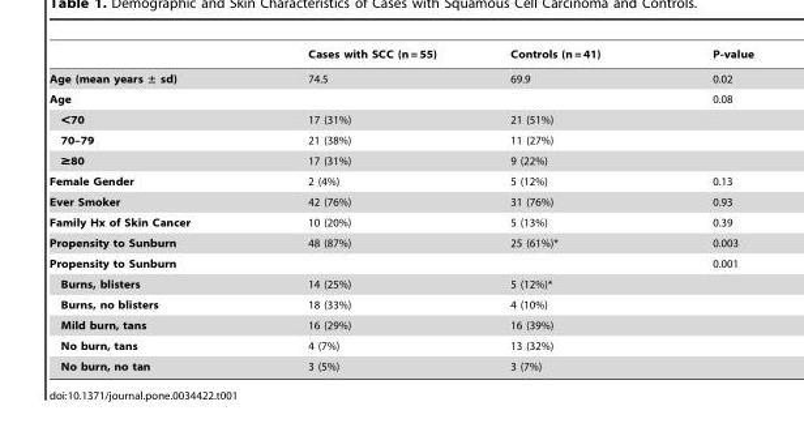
<table><thead><tr><td></td><td>Cases with SCC (n = 55)</td><td>Controls (n = 41)</td><td>P-value</td></tr></thead><tbody><tr><td>Age (mean years ± sd)</td><td>74.5</td><td>69.9</td><td>0.02</td></tr><tr><td>Age</td><td></td><td></td><td>0.08</td></tr><tr><td>&lt;70</td><td>17 (31%)</td><td>21 (51%)</td><td></td></tr><tr><td>70–79</td><td>21 (38%)</td><td>11 (27%)</td><td></td></tr><tr><td>≥80</td><td>17 (31%)</td><td>9 (22%)</td><td></td></tr><tr><td>Female Gender</td><td>2 (4%)</td><td>5 (12%)</td><td>0.13</td></tr><tr><td>Ever Smoker</td><td>42 (76%)</td><td>31 (76%)</td><td>0.93</td></tr><tr><td>Family Hx of Skin Cancer</td><td>10 (20%)</td><td>5 (13%)</td><td>0.39</td></tr><tr><td>Propensity to Sunburn</td><td>48 (87%)</td><td>25 (61%)*</td><td>0.003</td></tr><tr><td>Propensity to Sunburn</td><td></td><td></td><td>0.001</td></tr><tr><td>Burns, blisters</td><td>14 (25%)</td><td>5 (12%)*</td><td></td></tr><tr><td>Burns, no blisters</td><td>18 (33%)</td><td>4 (10%)</td><td></td></tr><tr><td>Mild burn, tans</td><td>16 (29%)</td><td>16 (39%)</td><td></td></tr><tr><td>No burn, tans</td><td>4 (7%)</td><td>13 (32%)</td><td></td></tr><tr><td>No burn, no tan</td><td>3 (5%)</td><td>3 (7%)</td><td></td></tr></tbody></table>